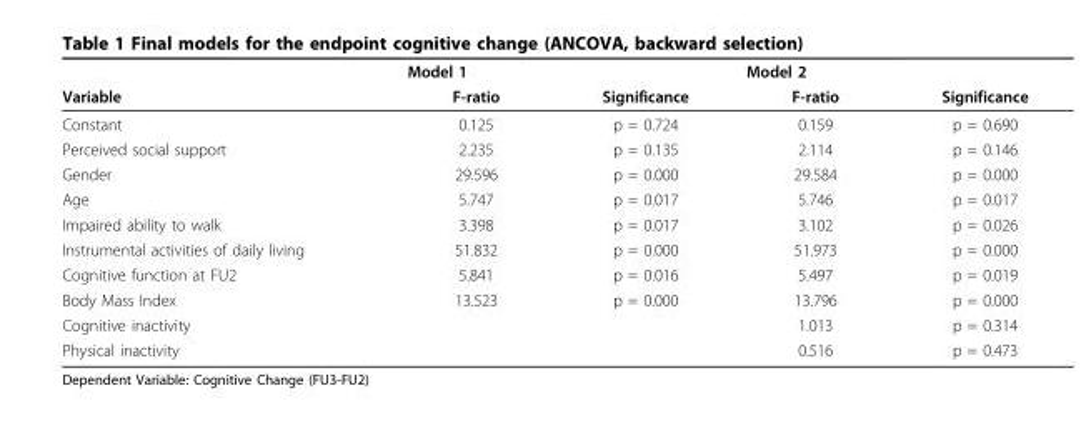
<table><thead><tr><td rowspan="2">Variable</td><td colspan="2">Model 1</td><td colspan="2">Model 2</td></tr><tr><td>F-ratio</td><td>Significance</td><td>F-ratio</td><td>Significance</td></tr></thead><tbody><tr><td>Constant</td><td>0.125</td><td>p = 0.724</td><td>0.159</td><td>p = 0.690</td></tr><tr><td>Perceived social support</td><td>2.235</td><td>p = 0.135</td><td>2.114</td><td>p = 0.146</td></tr><tr><td>Gender</td><td>29.596</td><td>p = 0.000</td><td>29.584</td><td>p = 0.000</td></tr><tr><td>Age</td><td>5.747</td><td>p = 0.017</td><td>5.746</td><td>p = 0.017</td></tr><tr><td>Impaired ability to walk</td><td>3.398</td><td>p = 0.017</td><td>3.102</td><td>p = 0.026</td></tr><tr><td>Instrumental activities of daily living</td><td>51.832</td><td>p = 0.000</td><td>51.973</td><td>p = 0.000</td></tr><tr><td>Cognitive function at FU2</td><td>5.841</td><td>p = 0.016</td><td>5.497</td><td>p = 0.019</td></tr><tr><td>Body Mass Index</td><td>13.523</td><td>p = 0.000</td><td>13.796</td><td>p = 0.000</td></tr><tr><td>Cognitive inactivity</td><td></td><td></td><td>1.013</td><td>p = 0.314</td></tr><tr><td>Physical inactivity</td><td></td><td></td><td>0.516</td><td>p = 0.473</td></tr></tbody></table>